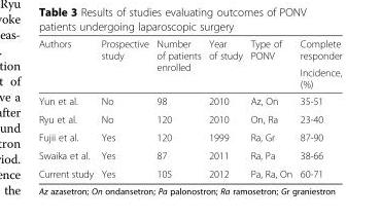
<table><thead><tr><td rowspan="2">Authors</td><td rowspan="2">Prospective study</td><td rowspan="2">Number of patients enrolled</td><td rowspan="2">Year of study</td><td rowspan="2">Type of PONV</td><td rowspan="2">Complete responder Incidence, (%)</td></tr><tr></tr></thead><tbody><tr><td>Yun et al.</td><td>No</td><td>98</td><td>2010</td><td>Az, On</td><td>35-51</td></tr><tr><td>Ryu et al.</td><td>No</td><td>120</td><td>2010</td><td>On, Ra</td><td>23-40</td></tr><tr><td>Fujii et al.</td><td>Yes</td><td>120</td><td>1999</td><td>Ra, Gr</td><td>87-90</td></tr><tr><td>Swaika et al.</td><td>Yes</td><td>87</td><td>2011</td><td>Ra, Pa</td><td>38-66</td></tr><tr><td>Current study</td><td>Yes</td><td>105</td><td>2012</td><td>Pa, Ra, On</td><td>60-71</td></tr></tbody></table>